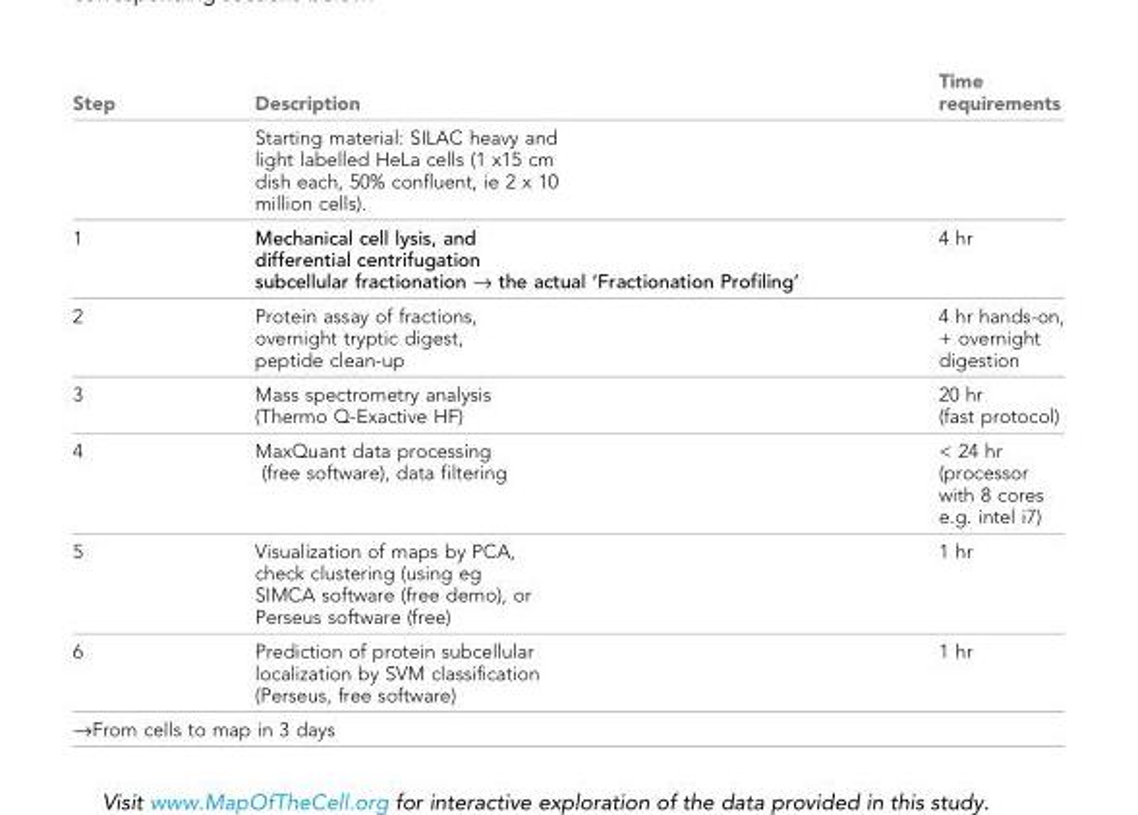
<table><thead><tr><td>Step</td><td>Description</td><td>Time requirements</td></tr></thead><tbody><tr><td></td><td>Starting material: SILAC heavy and light labelled HeLa cells (1 x15 cm dish each, 50% confluent, ie 2 x 10 million cells).</td><td></td></tr><tr><td>1</td><td>Mechanical cell lysis, and differential centrifugation subcellular fractionation fi the actual ‘Fractionation Profiling’</td><td>4 hr</td></tr><tr><td>2</td><td>Protein assay of fractions, overnight tryptic digest, peptide clean-up</td><td>4 hr hands-on, + overnight digestion</td></tr><tr><td>3</td><td>Mass spectrometry analysis (Thermo Q-Exactive HF)</td><td>20 hr (fast protocol)</td></tr><tr><td>4</td><td>MaxQuant data processing (free software), data filtering</td><td>&lt; 24 hr (processor with 8 cores e.g. intel i7)</td></tr><tr><td>5</td><td>Visualization of maps by PCA, check clustering (using eg SIMCA software (free demo), or Perseus software (free)</td><td>1 hr</td></tr><tr><td>6</td><td>Prediction of protein subcellular localization by SVM classification (Perseus, free software)</td><td>1 hr</td></tr><tr><td colspan="3">fiFrom cells to map in 3 days</td></tr></tbody></table>